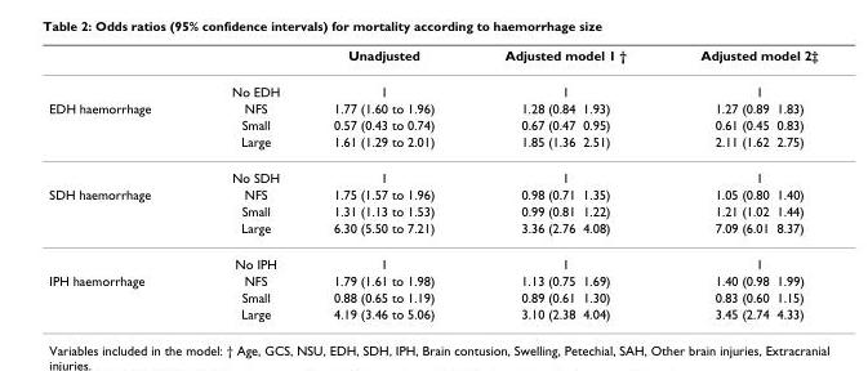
<table><thead><tr><td></td><td></td><td>Unadjusted</td><td>Adjusted model 1 †</td><td>Adjusted model 2‡</td></tr></thead><tbody><tr><td></td><td>No EDH</td><td>1</td><td>1</td><td>1</td></tr><tr><td rowspan="4">EDH haemorrhage</td><td>NFS</td><td>1.77 (1.60 to 1.96)</td><td>1.28 (0.84 1.93)</td><td>1.27 (0.89 1.83)</td></tr><tr><td>Small</td><td>0.57 (0.43 to 0.74)</td><td>0.67 (0.47 0.95)</td><td>0.61 (0.45 0.83)</td></tr><tr><td>Large</td><td>1.61 (1.29 to 2.01)</td><td>1.85 (1.36 2.51)</td><td>2.11 (1.62 2.75)</td></tr><tr><td>No SDH</td><td>1</td><td>1</td><td>1</td></tr><tr><td rowspan="4">SDH haemorrhage</td><td>NFS</td><td>1.75 (1.57 to 1.96)</td><td>0.98 (0.71 1.35)</td><td>1.05 (0.80 1.40)</td></tr><tr><td>Small</td><td>1.31 (1.13 to 1.53)</td><td>0.99 (0.81 1.22)</td><td>1.21 (1.02 1.44)</td></tr><tr><td>Large</td><td>6.30 (5.50 to 7.21)</td><td>3.36 (2.76 4.08)</td><td>7.09 (6.01 8.37)</td></tr><tr><td>No IPH</td><td>1</td><td>1</td><td>1</td></tr><tr><td rowspan="3">IPH haemorrhage</td><td>NFS</td><td>1.79 (1.61 to 1.98)</td><td>1.13 (0.75 1.69)</td><td>1.40 (0.98 1.99)</td></tr><tr><td>Small</td><td>0.88 (0.65 to 1.19)</td><td>0.89 (0.61 1.30)</td><td>0.83 (0.60 1.15)</td></tr><tr><td>Large</td><td>4.19 (3.46 to 5.06)</td><td>3.10 (2.38 4.04)</td><td>3.45 (2.74 4.33)</td></tr></tbody></table>